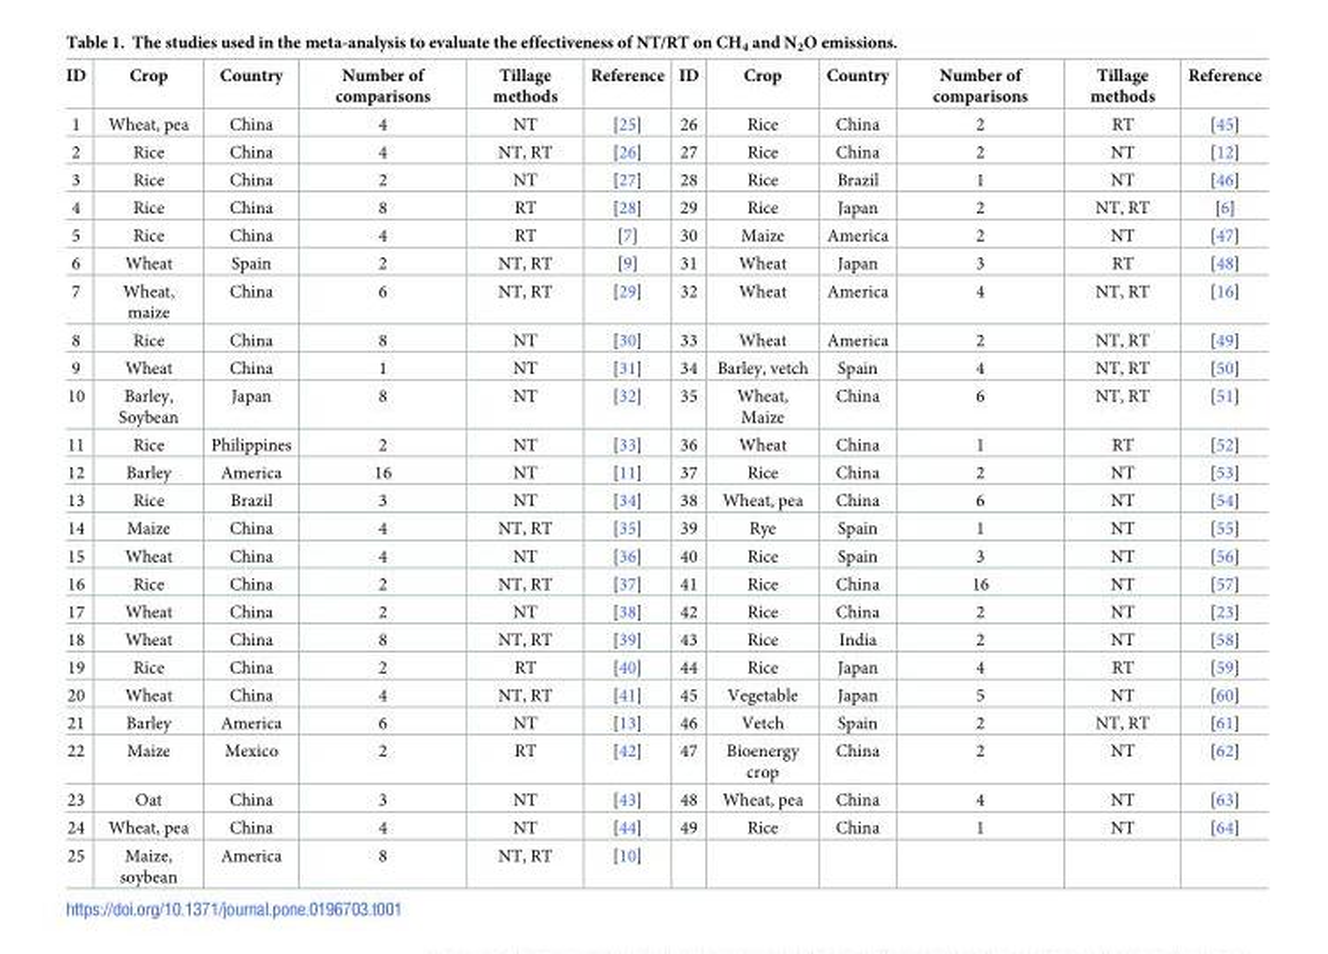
<table><thead><tr><td>ID</td><td>Crop</td><td>Country</td><td>Number of comparisons</td><td>Tillage methods</td><td>Reference</td><td>ID</td><td>Crop</td><td>Country</td><td>Number of comparisons</td><td>Tillage methods</td><td>Reference</td></tr></thead><tbody><tr><td>1</td><td>Wheat, pea</td><td>China</td><td>4</td><td>NT</td><td>[25]</td><td>26</td><td>Rice</td><td>China</td><td>2</td><td>RT</td><td>[45]</td></tr><tr><td>2</td><td>Rice</td><td>China</td><td>4</td><td>NT, RT</td><td>[26]</td><td>27</td><td>Rice</td><td>China</td><td>2</td><td>NT</td><td>[12]</td></tr><tr><td>3</td><td>Rice</td><td>China</td><td>2</td><td>NT</td><td>[27]</td><td>28</td><td>Rice</td><td>Brazil</td><td>1</td><td>NT</td><td>[46]</td></tr><tr><td>4</td><td>Rice</td><td>China</td><td>8</td><td>RT</td><td>[28]</td><td>29</td><td>Rice</td><td>Japan</td><td>2</td><td>NT, RT</td><td>[6]</td></tr><tr><td>5</td><td>Rice</td><td>China</td><td>4</td><td>RT</td><td>[7]</td><td>30</td><td>Maize</td><td>America</td><td>2</td><td>NT</td><td>[47]</td></tr><tr><td>6</td><td>Wheat</td><td>Spain</td><td>2</td><td>NT, RT</td><td>[9]</td><td>31</td><td>Wheat</td><td>Japan</td><td>3</td><td>RT</td><td>[48]</td></tr><tr><td>7</td><td>Wheat, maize</td><td>China</td><td>6</td><td>NT, RT</td><td>[29]</td><td>32</td><td>Wheat</td><td>America</td><td>4</td><td>NT, RT</td><td>[16]</td></tr><tr><td>8</td><td>Rice</td><td>China</td><td>8</td><td>NT</td><td>[30]</td><td>33</td><td>Wheat</td><td>America</td><td>2</td><td>NT, RT</td><td>[49]</td></tr><tr><td>9</td><td>Wheat</td><td>China</td><td>1</td><td>NT</td><td>[31]</td><td>34</td><td>Barley, vetch</td><td>Spain</td><td>4</td><td>NT, RT</td><td>[50]</td></tr><tr><td>10</td><td>Barley, Soybean</td><td>Japan</td><td>8</td><td>NT</td><td>[32]</td><td>35</td><td>Wheat, Maize</td><td>China</td><td>6</td><td>NT, RT</td><td>[51]</td></tr><tr><td>11</td><td>Rice</td><td>Philippines</td><td>2</td><td>NT</td><td>[33]</td><td>36</td><td>Wheat</td><td>China</td><td>1</td><td>RT</td><td>[52]</td></tr><tr><td>12</td><td>Barley</td><td>America</td><td>16</td><td>NT</td><td>[11]</td><td>37</td><td>Rice</td><td>China</td><td>2</td><td>NT</td><td>[53]</td></tr><tr><td>13</td><td>Rice</td><td>Brazil</td><td>3</td><td>NT</td><td>[34]</td><td>38</td><td>Wheat, pea</td><td>China</td><td>6</td><td>NT</td><td>[54]</td></tr><tr><td>14</td><td>Maize</td><td>China</td><td>4</td><td>NT, RT</td><td>[35]</td><td>39</td><td>Rye</td><td>Spain</td><td>1</td><td>NT</td><td>[55]</td></tr><tr><td>15</td><td>Wheat</td><td>China</td><td>4</td><td>NT</td><td>[36]</td><td>40</td><td>Rice</td><td>Spain</td><td>3</td><td>NT</td><td>[56]</td></tr><tr><td>16</td><td>Rice</td><td>China</td><td>2</td><td>NT, RT</td><td>[37]</td><td>41</td><td>Rice</td><td>China</td><td>16</td><td>NT</td><td>[57]</td></tr><tr><td>17</td><td>Wheat</td><td>China</td><td>2</td><td>NT</td><td>[38]</td><td>42</td><td>Rice</td><td>China</td><td>2</td><td>NT</td><td>[23]</td></tr><tr><td>18</td><td>Wheat</td><td>China</td><td>8</td><td>NT, RT</td><td>[39]</td><td>43</td><td>Rice</td><td>India</td><td>2</td><td>NT</td><td>[58]</td></tr><tr><td>19</td><td>Rice</td><td>China</td><td>2</td><td>RT</td><td>[40]</td><td>44</td><td>Rice</td><td>Japan</td><td>4</td><td>RT</td><td>[59]</td></tr><tr><td>20</td><td>Wheat</td><td>China</td><td>4</td><td>NT, RT</td><td>[41]</td><td>45</td><td>Vegetable</td><td>Japan</td><td>5</td><td>NT</td><td>[60]</td></tr><tr><td>21</td><td>Barley</td><td>America</td><td>6</td><td>NT</td><td>[13]</td><td>46</td><td>Vetch</td><td>Spain</td><td>2</td><td>NT, RT</td><td>[61]</td></tr><tr><td>22</td><td>Maize</td><td>Mexico</td><td>2</td><td>RT</td><td>[42]</td><td>47</td><td>Bioenergy crop</td><td>China</td><td>2</td><td>NT</td><td>[62]</td></tr><tr><td>23</td><td>Oat</td><td>China</td><td>3</td><td>NT</td><td>[43]</td><td>48</td><td>Wheat, pea</td><td>China</td><td>4</td><td>NT</td><td>[63]</td></tr><tr><td>24</td><td>Wheat, pea</td><td>China</td><td>4</td><td>NT</td><td>[44]</td><td>49</td><td>Rice</td><td>China</td><td>1</td><td>NT</td><td>[64]</td></tr><tr><td>25</td><td>Maize, soybean</td><td>America</td><td>8</td><td>NT, RT</td><td>[10]</td><td></td><td></td><td></td><td></td><td></td><td></td></tr></tbody></table>